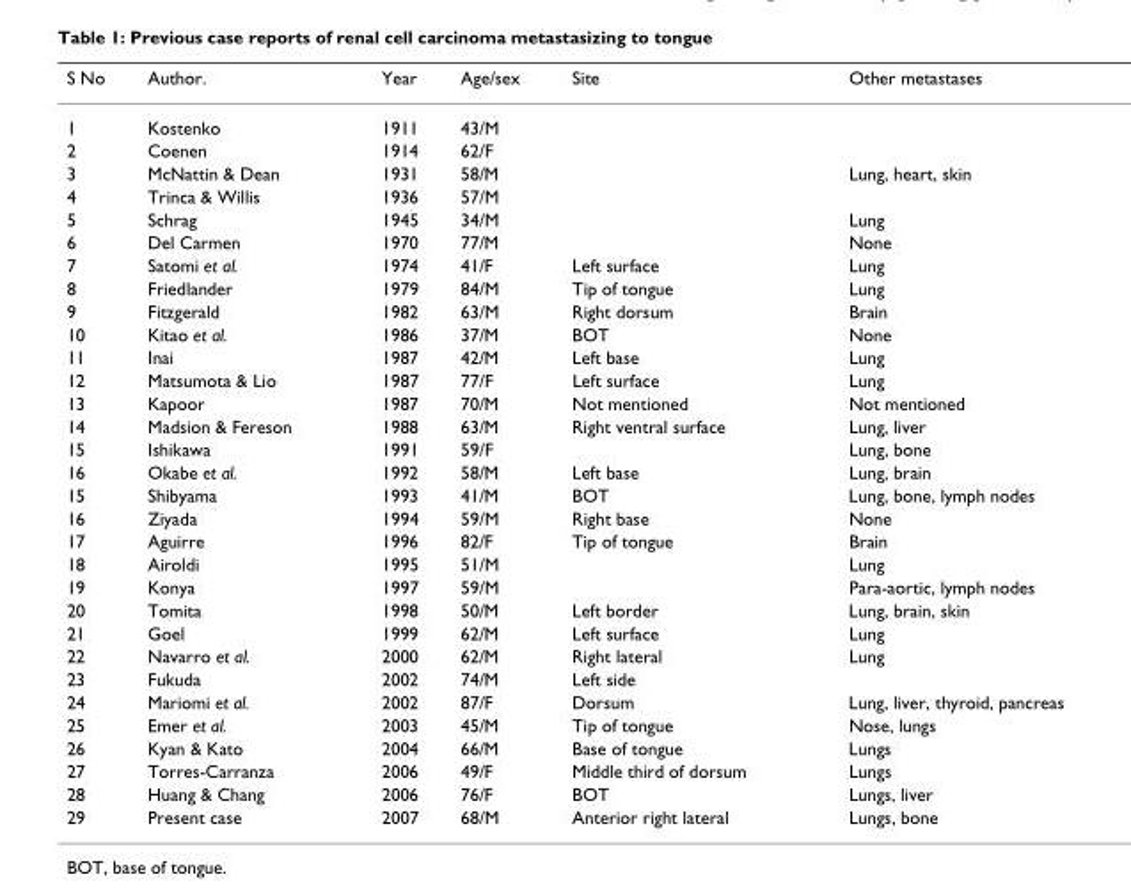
<table><thead><tr><td>S No</td><td>Author.</td><td>Year</td><td>Age/sex</td><td>Site</td><td>Other metastases</td></tr></thead><tbody><tr><td>1</td><td>Kostenko</td><td>1911</td><td>43/M</td><td></td><td></td></tr><tr><td>2</td><td>Coenen</td><td>1914</td><td>62/F</td><td></td><td></td></tr><tr><td>3</td><td>McNattin &amp; Dean</td><td>1931</td><td>58/M</td><td></td><td>Lung, heart, skin</td></tr><tr><td>4</td><td>Trinca &amp; Willis</td><td>1936</td><td>57/M</td><td></td><td></td></tr><tr><td>5</td><td>Schrag</td><td>1945</td><td>34/M</td><td></td><td>Lung</td></tr><tr><td>6</td><td>Del Carmen</td><td>1970</td><td>77/M</td><td></td><td>None</td></tr><tr><td>7</td><td>Satomi et al.</td><td>1974</td><td>41/F</td><td>Left surface</td><td>Lung</td></tr><tr><td>8</td><td>Friedlander</td><td>1979</td><td>84/M</td><td>Tip of tongue</td><td>Lung</td></tr><tr><td>9</td><td>Fitzgerald</td><td>1982</td><td>63/M</td><td>Right dorsum</td><td>Brain</td></tr><tr><td>10</td><td>Kitao et al.</td><td>1986</td><td>37/M</td><td>BOT</td><td>None</td></tr><tr><td>11</td><td>Inai</td><td>1987</td><td>42/M</td><td>Left base</td><td>Lung</td></tr><tr><td>12</td><td>Matsumota &amp; Lio</td><td>1987</td><td>77/F</td><td>Left surface</td><td>Lung</td></tr><tr><td>13</td><td>Kapoor</td><td>1987</td><td>70/M</td><td>Not mentioned</td><td>Not mentioned</td></tr><tr><td>14</td><td>Madsion &amp; Fereson</td><td>1988</td><td>63/M</td><td>Right ventral surface</td><td>Lung, liver</td></tr><tr><td>15</td><td>Ishikawa</td><td>1991</td><td>59/F</td><td></td><td>Lung, bone</td></tr><tr><td>16</td><td>Okabe et al.</td><td>1992</td><td>58/M</td><td>Left base</td><td>Lung, brain</td></tr><tr><td>15</td><td>Shibyama</td><td>1993</td><td>41/M</td><td>BOT</td><td>Lung, bone, lymph nodes</td></tr><tr><td>16</td><td>Ziyada</td><td>1994</td><td>59/M</td><td>Right base</td><td>None</td></tr><tr><td>17</td><td>Aguirre</td><td>1996</td><td>82/F</td><td>Tip of tongue</td><td>Brain</td></tr><tr><td>18</td><td>Airoldi</td><td>1995</td><td>51/M</td><td></td><td>Lung</td></tr><tr><td>19</td><td>Konya</td><td>1997</td><td>59/M</td><td></td><td>Para-aortic, lymph nodes</td></tr><tr><td>20</td><td>Tomita</td><td>1998</td><td>50/M</td><td>Left border</td><td>Lung, brain, skin</td></tr><tr><td>21</td><td>Goel</td><td>1999</td><td>62/M</td><td>Left surface</td><td>Lung</td></tr><tr><td>22</td><td>Navarro et al.</td><td>2000</td><td>62/M</td><td>Right lateral</td><td>Lung</td></tr><tr><td>23</td><td>Fukuda</td><td>2002</td><td>74/M</td><td>Left side</td><td></td></tr><tr><td>24</td><td>Mariomi et al.</td><td>2002</td><td>87/F</td><td>Dorsum</td><td>Lung, liver, thyroid, pancreas</td></tr><tr><td>25</td><td>Emer et al.</td><td>2003</td><td>45/M</td><td>Tip of tongue</td><td>Nose, lungs</td></tr><tr><td>26</td><td>Kyan &amp; Kato</td><td>2004</td><td>66/M</td><td>Base of tongue</td><td>Lungs</td></tr><tr><td>27</td><td>Torres-Carranza</td><td>2006</td><td>49/F</td><td>Middle third of dorsum</td><td>Lungs</td></tr><tr><td>28</td><td>Huang &amp; Chang</td><td>2006</td><td>76/F</td><td>BOT</td><td>Lungs, liver</td></tr><tr><td>29</td><td>Present case</td><td>2007</td><td>68/M</td><td>Anterior right lateral</td><td>Lungs, bone</td></tr></tbody></table>